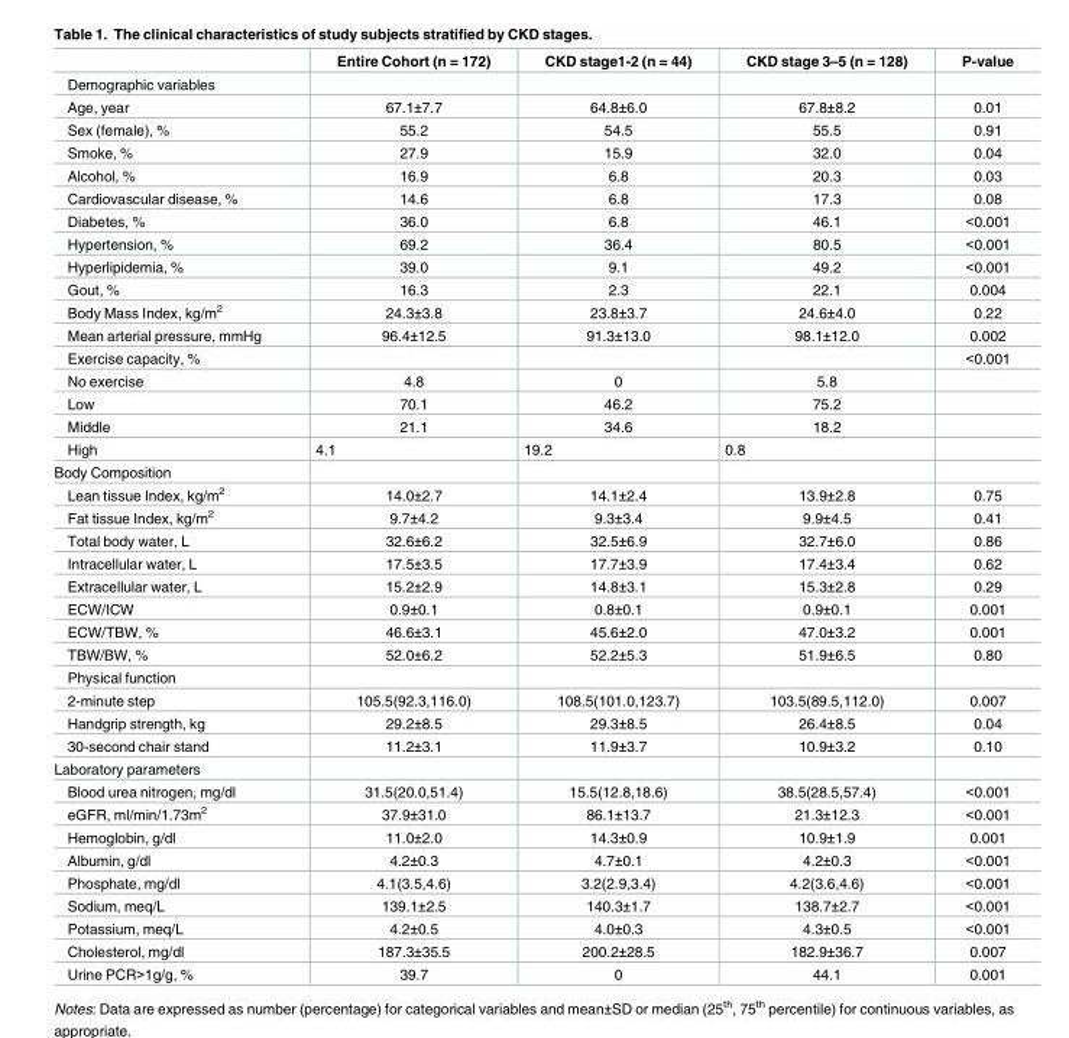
<table><thead><tr><td></td><td>Entire Cohort (n = 172)</td><td>CKD stage1-2 (n = 44)</td><td>CKD stage 3–5 (n = 128)</td><td>P-value</td></tr></thead><tbody><tr><td colspan="5">Demographic variables</td></tr><tr><td>Age, year</td><td>67.1±7.7</td><td>64.8±6.0</td><td>67.8±8.2</td><td>0.01</td></tr><tr><td>Sex (female), %</td><td>55.2</td><td>54.5</td><td>55.5</td><td>0.91</td></tr><tr><td>Smoke, %</td><td>27.9</td><td>15.9</td><td>32.0</td><td>0.04</td></tr><tr><td>Alcohol, %</td><td>16.9</td><td>6.8</td><td>20.3</td><td>0.03</td></tr><tr><td>Cardiovascular disease, %</td><td>14.6</td><td>6.8</td><td>17.3</td><td>0.08</td></tr><tr><td>Diabetes, %</td><td>36.0</td><td>6.8</td><td>46.1</td><td>&lt;0.001</td></tr><tr><td>Hypertension, %</td><td>69.2</td><td>36.4</td><td>80.5</td><td>&lt;0.001</td></tr><tr><td>Hyperlipidemia, %</td><td>39.0</td><td>9.1</td><td>49.2</td><td>&lt;0.001</td></tr><tr><td>Gout, %</td><td>16.3</td><td>2.3</td><td>22.1</td><td>0.004</td></tr><tr><td>Body Mass Index, kg/m<sup>2</sup></td><td>24.3±3.8</td><td>23.8±3.7</td><td>24.6±4.0</td><td>0.22</td></tr><tr><td>Mean arterial pressure, mmHg</td><td>96.4±12.5</td><td>91.3±13.0</td><td>98.1±12.0</td><td>0.002</td></tr><tr><td>Exercise capacity, %</td><td></td><td></td><td></td><td>&lt;0.001</td></tr><tr><td>No exercise</td><td>4.8</td><td>0</td><td>5.8</td><td></td></tr><tr><td>Low</td><td>70.1</td><td>46.2</td><td>75.2</td><td></td></tr><tr><td>Middle</td><td>21.1</td><td>34.6</td><td>18.2</td><td></td></tr><tr><td>High</td><td>4.1</td><td>19.2</td><td>0.8</td><td></td></tr><tr><td colspan="5">Body Composition</td></tr><tr><td>Lean tissue Index, kg/m<sup>2</sup></td><td>14.0±2.7</td><td>14.1±2.4</td><td>13.9±2.8</td><td>0.75</td></tr><tr><td>Fat tissue Index, kg/m<sup>2</sup></td><td>9.7±4.2</td><td>9.3±3.4</td><td>9.9±4.5</td><td>0.41</td></tr><tr><td>Total body water, L</td><td>32.6±6.2</td><td>32.5±6.9</td><td>32.7±6.0</td><td>0.86</td></tr><tr><td>Intracellular water, L</td><td>17.5±3.5</td><td>17.7±3.9</td><td>17.4±3.4</td><td>0.62</td></tr><tr><td>Extracellular water, L</td><td>15.2±2.9</td><td>14.8±3.1</td><td>15.3±2.8</td><td>0.29</td></tr><tr><td>ECW/ICW</td><td>0.9±0.1</td><td>0.8±0.1</td><td>0.9±0.1</td><td>0.001</td></tr><tr><td>ECW/TBW, %</td><td>46.6±3.1</td><td>45.6±2.0</td><td>47.0±3.2</td><td>0.001</td></tr><tr><td>TBW/BW, %</td><td>52.0±6.2</td><td>52.2±5.3</td><td>51.9±6.5</td><td>0.80</td></tr><tr><td colspan="5">Physical function</td></tr><tr><td>2-minute step</td><td>105.5(92.3,116.0)</td><td>108.5(101.0,123.7)</td><td>103.5(89.5,112.0)</td><td>0.007</td></tr><tr><td>Handgrip strength, kg</td><td>29.2±8.5</td><td>29.3±8.5</td><td>26.4±8.5</td><td>0.04</td></tr><tr><td>30-second chair stand</td><td>11.2±3.1</td><td>11.9±3.7</td><td>10.9±3.2</td><td>0.10</td></tr><tr><td colspan="5">Laboratory parameters</td></tr><tr><td>Blood urea nitrogen, mg/dl</td><td>31.5(20.0,51.4)</td><td>15.5(12.8,18.6)</td><td>38.5(28.5,57.4)</td><td>&lt;0.001</td></tr><tr><td>eGFR, ml/min/1.73m<sup>2</sup></td><td>37.9±31.0</td><td>86.1±13.7</td><td>21.3±12.3</td><td>&lt;0.001</td></tr><tr><td>Hemoglobin, g/dl</td><td>11.0±2.0</td><td>14.3±0.9</td><td>10.9±1.9</td><td>0.001</td></tr><tr><td>Albumin, g/dl</td><td>4.2±0.3</td><td>4.7±0.1</td><td>4.2±0.3</td><td>&lt;0.001</td></tr><tr><td>Phosphate, mg/dl</td><td>4.1(3.5,4.6)</td><td>3.2(2.9,3.4)</td><td>4.2(3.6,4.6)</td><td>&lt;0.001</td></tr><tr><td>Sodium, meq/L</td><td>139.1±2.5</td><td>140.3±1.7</td><td>138.7±2.7</td><td>&lt;0.001</td></tr><tr><td>Potassium, meq/L</td><td>4.2±0.5</td><td>4.0±0.3</td><td>4.3±0.5</td><td>&lt;0.001</td></tr><tr><td>Cholesterol, mg/dl</td><td>187.3±35.5</td><td>200.2±28.5</td><td>182.9±36.7</td><td>0.007</td></tr><tr><td>Urine PCR&gt;1g/g, %</td><td>39.7</td><td>0</td><td>44.1</td><td>0.001</td></tr></tbody></table>